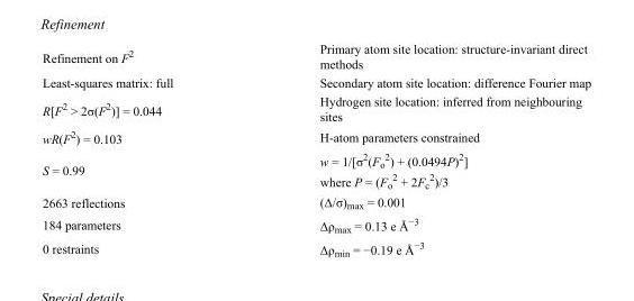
<table><tbody><tr><td>Refinement on F<sup>2</sup></td><td>Primary atom site location: structure-invariant direct methods</td></tr><tr><td>Least-squares matrix: full</td><td>Secondary atom site location: difference Fourier map</td></tr><tr><td>R[F<sup>2</sup> &gt; 2σ(F<sup>2</sup>)] = 0.044</td><td>Hydrogen site location: inferred from neighbouring sites</td></tr><tr><td>wR(F<sup>2</sup>) = 0.103</td><td>H-atom parameters constrained</td></tr><tr><td>S = 0.99</td><td>w = 1/[σ<sup>2</sup>(F<sub>o</sub> <sup>2</sup>) + (0.0494P)<sup>2</sup>] where P = (F<sub>o</sub> <sup>2</sup> + 2F<sub>c</sub> <sup>2</sup>)/3</td></tr><tr><td>2663 reflections</td><td>(Δ/σ)<sub>max</sub> = 0.001</td></tr><tr><td>184 parameters</td><td>Δρ<sub>max</sub> = 0.13 e Å<sup>−3</sup></td></tr><tr><td>0 restraints</td><td>Δρ<sub>min</sub> = −0.19 e Å<sup>−3</sup></td></tr></tbody></table>